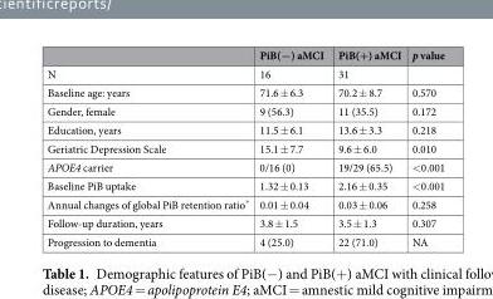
<table><thead><tr><td></td><td>PiB(−) aMCI</td><td>PiB(+) aMCI</td><td>p value</td></tr></thead><tbody><tr><td>N</td><td>16</td><td>31</td><td></td></tr><tr><td>Baseline age: years</td><td>71.6 ± 6.3</td><td>70.2 ± 8.7</td><td>0.570</td></tr><tr><td>Gender, female</td><td>9 (56.3)</td><td>11 (35.5)</td><td>0.172</td></tr><tr><td>Education, years</td><td>11.5 ± 6.1</td><td>13.6 ± 3.3</td><td>0.218</td></tr><tr><td>Geriatric Depression Scale</td><td>15.1 ± 7.7</td><td>9.6 ± 6.0</td><td>0.010</td></tr><tr><td>APOE4 carrier</td><td>0/16 (0)</td><td>19/29 (65.5)</td><td>&lt;0.001</td></tr><tr><td>Baseline PiB uptake</td><td>1.32 ± 0.13</td><td>2.16 ± 0.35</td><td>&lt;0.001</td></tr><tr><td>Annual changes of global PiB retention ratio*</td><td>0.01 ± 0.04</td><td>0.03 ± 0.06</td><td>0.258</td></tr><tr><td>Follow-up duration, years</td><td>3.8 ± 1.5</td><td>3.5 ± 1.3</td><td>0.307</td></tr><tr><td>Progression to dementia</td><td>4 (25.0)</td><td>22 (71.0)</td><td>NA</td></tr></tbody></table>